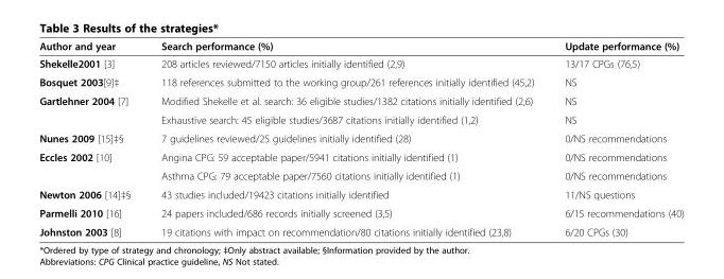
<table><thead><tr><td>Author and year</td><td>Search performance (%)</td><td>Update performance (%)</td></tr></thead><tbody><tr><td>Shekelle2001 [3]</td><td>208 articles reviewed/7150 articles initially identified (2,9)</td><td>13/17 CPGs (76,5)</td></tr><tr><td>Bosquet 2003[9]‡</td><td>118 references submitted to the working group/261 references initially identified (45,2)</td><td>NS</td></tr><tr><td rowspan="2">Gartlehner 2004 [7]</td><td>Modified Shekelle et al. search: 36 eligible studies/1382 citations initially identified (2,6)</td><td>NS</td></tr><tr><td>Exhaustive search: 45 eligible studies/3687 citations initially identified (1,2)</td><td>NS</td></tr><tr><td>Nunes 2009 [15]‡§</td><td>7 guidelines reviewed/25 guidelines initially identified (28)</td><td>0/NS recommendations</td></tr><tr><td rowspan="2">Eccles 2002 [10]</td><td>Angina CPG: 59 acceptable paper/5941 citations initially identified (1)</td><td>0/NS recommendations</td></tr><tr><td>Asthma CPG: 79 acceptable paper/7560 citations initially identified (1)</td><td>0/NS recommendations</td></tr><tr><td>Newton 2006 [14]‡§</td><td>43 studies included/19423 citations initially identified</td><td>11/NS questions</td></tr><tr><td>Parmelli 2010 [16]</td><td>24 papers included/686 records initially screened (3,5)</td><td>6/15 recommendations (40)</td></tr><tr><td>Johnston 2003 [8]</td><td>19 citations with impact on recommendation/80 citations initially identified (23,8)</td><td>6/20 CPGs (30)</td></tr></tbody></table>